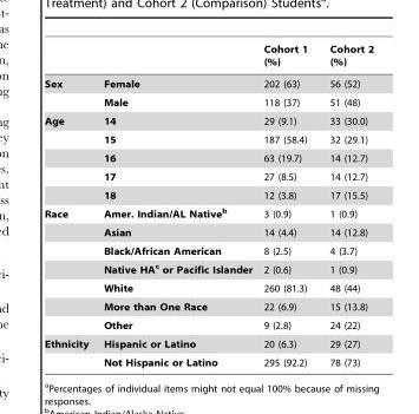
<table><thead><tr><td></td><td></td><td>Cohort 1 (%)</td><td>Cohort 2 (%)</td></tr></thead><tbody><tr><td rowspan="2">Sex</td><td>Female</td><td>202 (63)</td><td>56 (52)</td></tr><tr><td>Male</td><td>118 (37)</td><td>51 (48)</td></tr><tr><td rowspan="5">Age</td><td>14</td><td>29 (9.1)</td><td>33 (30.0)</td></tr><tr><td>15</td><td>187 (58.4)</td><td>32 (29.1)</td></tr><tr><td>16</td><td>63 (19.7)</td><td>14 (12.7)</td></tr><tr><td>17</td><td>27 (8.5)</td><td>14 (12.7)</td></tr><tr><td>18</td><td>12 (3.8)</td><td>17 (15.5)</td></tr><tr><td rowspan="7">Race</td><td>Amer. Indian/AL Nativeb</td><td>3 (0.9)</td><td>1 (0.9)</td></tr><tr><td>Asian</td><td>14 (4.4)</td><td>14 (12.8)</td></tr><tr><td>Black/African American</td><td>8 (2.5)</td><td>4 (3.7)</td></tr><tr><td>Native HAc or Pacific Islander</td><td>2 (0.6)</td><td>1 (0.9)</td></tr><tr><td>White</td><td>260 (81.3)</td><td>48 (44)</td></tr><tr><td>More than One Race</td><td>22 (6.9)</td><td>15 (13.8)</td></tr><tr><td>Other</td><td>9 (2.8)</td><td>24 (22)</td></tr><tr><td rowspan="2">Ethnicity</td><td>Hispanic or Latino</td><td>20 (6.3)</td><td>29 (27)</td></tr><tr><td>Not Hispanic or Latino</td><td>295 (92.2)</td><td>78 (73)</td></tr></tbody></table>